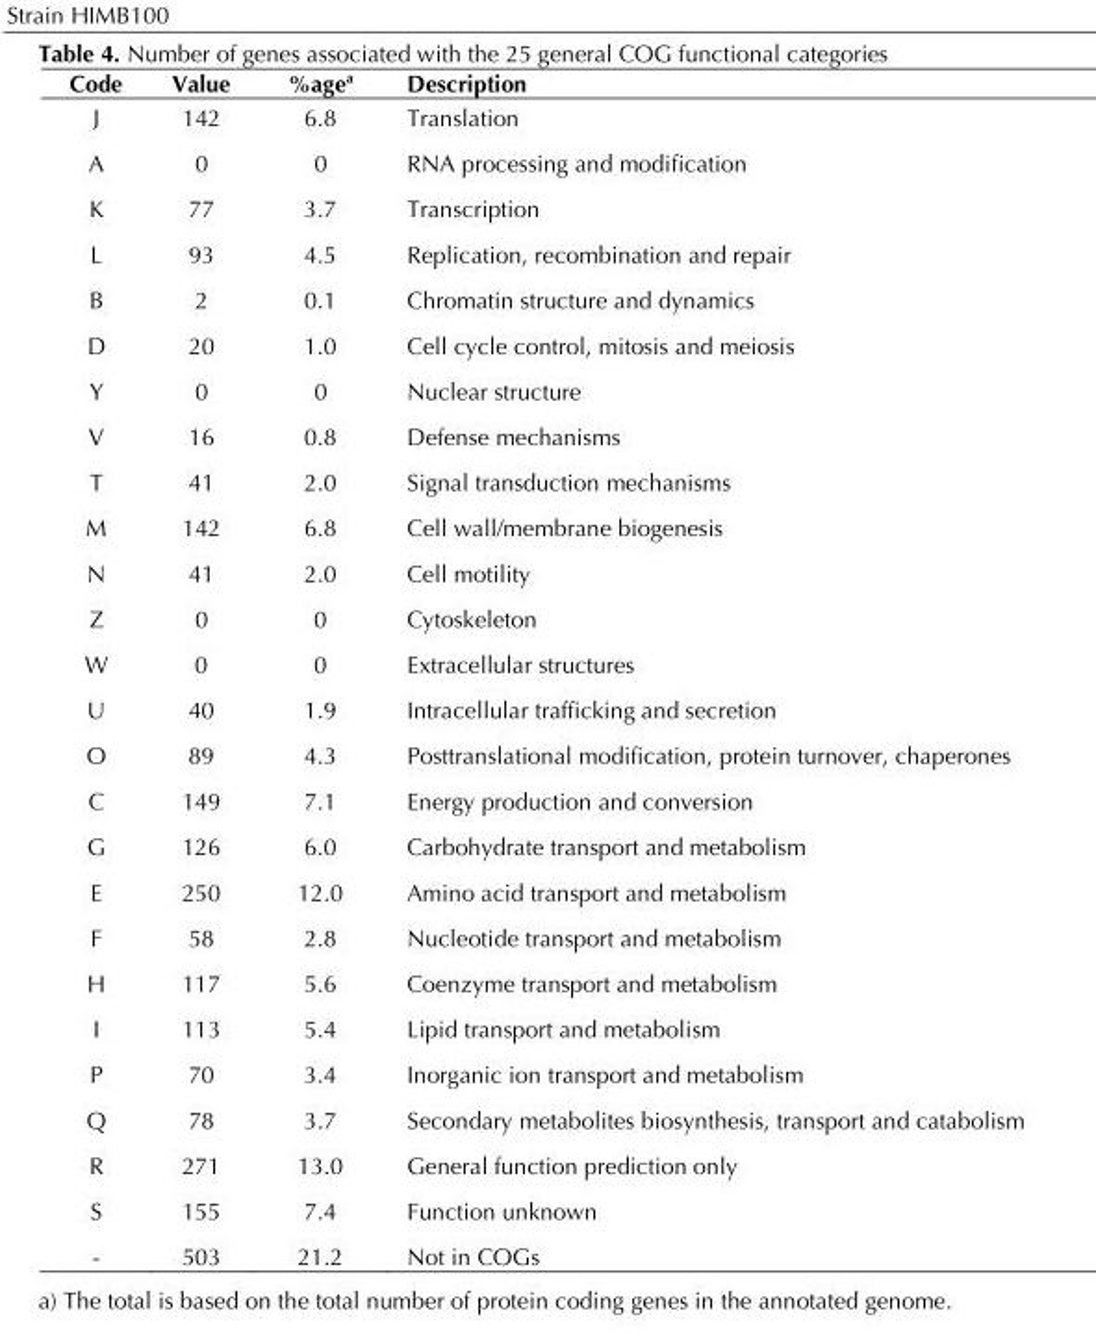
<table><thead><tr><td>Code</td><td>Value</td><td>%age<sup>a</sup></td><td>Description</td></tr></thead><tbody><tr><td>J</td><td>142</td><td>6.8</td><td>Translation</td></tr><tr><td>A</td><td>0</td><td>0</td><td>RNA processing and modification</td></tr><tr><td>K</td><td>77</td><td>3.7</td><td>Transcription</td></tr><tr><td>L</td><td>93</td><td>4.5</td><td>Replication, recombination and repair</td></tr><tr><td>B</td><td>2</td><td>0.1</td><td>Chromatin structure and dynamics</td></tr><tr><td>D</td><td>20</td><td>1.0</td><td>Cell cycle control, mitosis and meiosis</td></tr><tr><td>Y</td><td>0</td><td>0</td><td>Nuclear structure</td></tr><tr><td>V</td><td>16</td><td>0.8</td><td>Defense mechanisms</td></tr><tr><td>T</td><td>41</td><td>2.0</td><td>Signal transduction mechanisms</td></tr><tr><td>M</td><td>142</td><td>6.8</td><td>Cell wall/membrane biogenesis</td></tr><tr><td>N</td><td>41</td><td>2.0</td><td>Cell motility</td></tr><tr><td>Z</td><td>0</td><td>0</td><td>Cytoskeleton</td></tr><tr><td>W</td><td>0</td><td>0</td><td>Extracellular structures</td></tr><tr><td>U</td><td>40</td><td>1.9</td><td>Intracellular trafficking and secretion</td></tr><tr><td>O</td><td>89</td><td>4.3</td><td>Posttranslational modification, protein turnover, chaperones</td></tr><tr><td>C</td><td>149</td><td>7.1</td><td>Energy production and conversion</td></tr><tr><td>G</td><td>126</td><td>6.0</td><td>Carbohydrate transport and metabolism</td></tr><tr><td>E</td><td>250</td><td>12.0</td><td>Amino acid transport and metabolism</td></tr><tr><td>F</td><td>58</td><td>2.8</td><td>Nucleotide transport and metabolism</td></tr><tr><td>H</td><td>117</td><td>5.6</td><td>Coenzyme transport and metabolism</td></tr><tr><td>I</td><td>113</td><td>5.4</td><td>Lipid transport and metabolism</td></tr><tr><td>P</td><td>70</td><td>3.4</td><td>Inorganic ion transport and metabolism</td></tr><tr><td>Q</td><td>78</td><td>3.7</td><td>Secondary metabolites biosynthesis, transport and catabolism</td></tr><tr><td>R</td><td>271</td><td>13.0</td><td>General function prediction only</td></tr><tr><td>S</td><td>155</td><td>7.4</td><td>Function unknown</td></tr><tr><td>-</td><td>503</td><td>21.2</td><td>Not in COGs</td></tr></tbody></table>